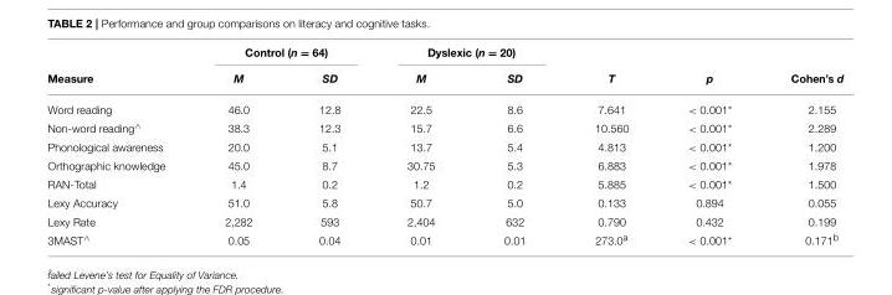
<table><thead><tr><td rowspan="2">Measure</td><td colspan="2">Control (n = 64)</td><td colspan="2">Dyslexic (n = 20)</td><td rowspan="2">T</td><td rowspan="2">p</td><td rowspan="2">Cohen’s d</td></tr><tr><td>M</td><td>SD</td><td>M</td><td>SD</td></tr></thead><tbody><tr><td>Word reading</td><td>46.0</td><td>12.8</td><td>22.5</td><td>8.6</td><td>7.641</td><td>&lt; 0.001*</td><td>2.155</td></tr><tr><td>Non-word reading<sup>∧</sup></td><td>38.3</td><td>12.3</td><td>15.7</td><td>6.6</td><td>10.560</td><td>&lt; 0.001*</td><td>2.289</td></tr><tr><td>Phonological awareness</td><td>20.0</td><td>5.1</td><td>13.7</td><td>5.4</td><td>4.813</td><td>&lt; 0.001*</td><td>1.200</td></tr><tr><td>Orthographic knowledge</td><td>45.0</td><td>8.7</td><td>30.75</td><td>5.3</td><td>6.883</td><td>&lt; 0.001*</td><td>1.978</td></tr><tr><td>RAN-Total</td><td>1.4</td><td>0.2</td><td>1.2</td><td>0.2</td><td>5.885</td><td>&lt; 0.001*</td><td>1.500</td></tr><tr><td>Lexy Accuracy</td><td>51.0</td><td>5.8</td><td>50.7</td><td>5.0</td><td>0.133</td><td>0.894</td><td>0.055</td></tr><tr><td>Lexy Rate</td><td>2,282</td><td>593</td><td>2,404</td><td>632</td><td>0.790</td><td>0.432</td><td>0.199</td></tr><tr><td>3MAST<sup>∧</sup></td><td>0.05</td><td>0.04</td><td>0.01</td><td>0.01</td><td>273.0<sup>a</sup></td><td>&lt; 0.001*</td><td>0.171<sup>b</sup></td></tr></tbody></table>